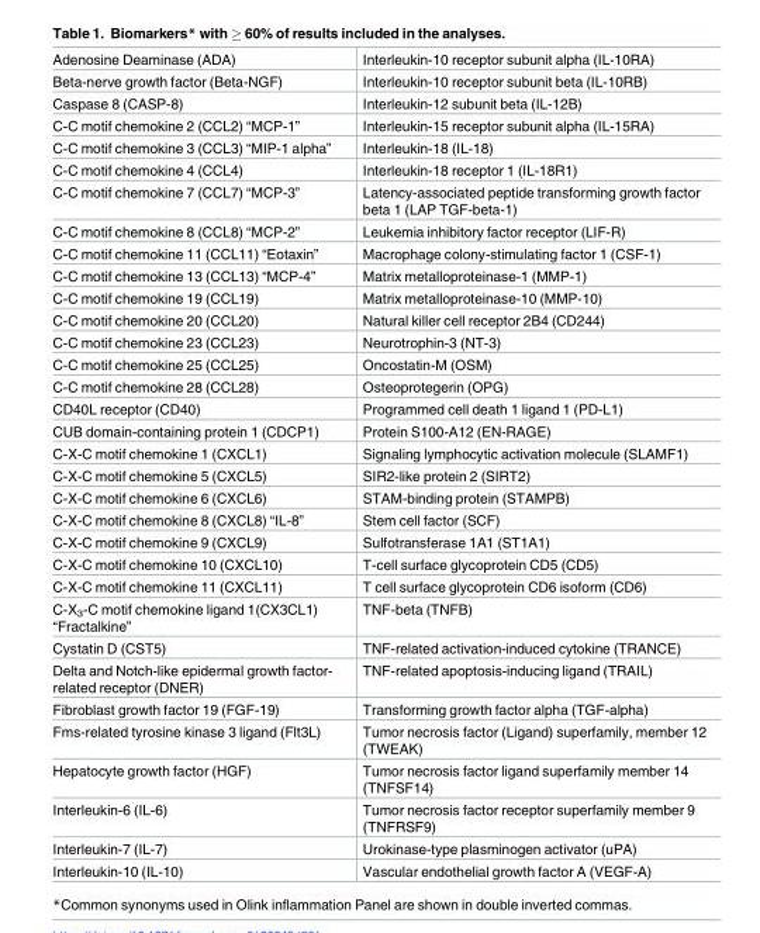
<table><tbody><tr><td>Adenosine Deaminase (ADA)</td><td>Interleukin-10 receptor subunit alpha (IL-10RA)</td></tr><tr><td>Beta-nerve growth factor (Beta-NGF)</td><td>Interleukin-10 receptor subunit beta (IL-10RB)</td></tr><tr><td>Caspase 8 (CASP-8)</td><td>Interleukin-12 subunit beta (IL-12B)</td></tr><tr><td>C-C motif chemokine 2 (CCL2) “MCP-1”</td><td>Interleukin-15 receptor subunit alpha (IL-15RA)</td></tr><tr><td>C-C motif chemokine 3 (CCL3) “MIP-1 alpha”</td><td>Interleukin-18 (IL-18)</td></tr><tr><td>C-C motif chemokine 4 (CCL4)</td><td>Interleukin-18 receptor 1 (IL-18R1)</td></tr><tr><td>C-C motif chemokine 7 (CCL7) “MCP-3”</td><td>Latency-associated peptide transforming growth factor beta 1 (LAP TGF-beta-1)</td></tr><tr><td>C-C motif chemokine 8 (CCL8) “MCP-2”</td><td>Leukemia inhibitory factor receptor (LIF-R)</td></tr><tr><td>C-C motif chemokine 11 (CCL11) “Eotaxin”</td><td>Macrophage colony-stimulating factor 1 (CSF-1)</td></tr><tr><td>C-C motif chemokine 13 (CCL13) “MCP-4”</td><td>Matrix metalloproteinase-1 (MMP-1)</td></tr><tr><td>C-C motif chemokine 19 (CCL19)</td><td>Matrix metalloproteinase-10 (MMP-10)</td></tr><tr><td>C-C motif chemokine 20 (CCL20)</td><td>Natural killer cell receptor 2B4 (CD244)</td></tr><tr><td>C-C motif chemokine 23 (CCL23)</td><td>Neurotrophin-3 (NT-3)</td></tr><tr><td>C-C motif chemokine 25 (CCL25)</td><td>Oncostatin-M (OSM)</td></tr><tr><td>C-C motif chemokine 28 (CCL28)</td><td>Osteoprotegerin (OPG)</td></tr><tr><td>CD40L receptor (CD40)</td><td>Programmed cell death 1 ligand 1 (PD-L1)</td></tr><tr><td>CUB domain-containing protein 1 (CDCP1)</td><td>Protein S100-A12 (EN-RAGE)</td></tr><tr><td>C-X-C motif chemokine 1 (CXCL1)</td><td>Signaling lymphocytic activation molecule (SLAMF1)</td></tr><tr><td>C-X-C motif chemokine 5 (CXCL5)</td><td>SIR2-like protein 2 (SIRT2)</td></tr><tr><td>C-X-C motif chemokine 6 (CXCL6)</td><td>STAM-binding protein (STAMPB)</td></tr><tr><td>C-X-C motif chemokine 8 (CXCL8) “IL-8”</td><td>Stem cell factor (SCF)</td></tr><tr><td>C-X-C motif chemokine 9 (CXCL9)</td><td>Sulfotransferase 1A1 (ST1A1)</td></tr><tr><td>C-X-C motif chemokine 10 (CXCL10)</td><td>T-cell surface glycoprotein CD5 (CD5)</td></tr><tr><td>C-X-C motif chemokine 11 (CXCL11)</td><td>T cell surface glycoprotein CD6 isoform (CD6)</td></tr><tr><td>C-X<sub>3</sub>-C motif chemokine ligand 1(CX3CL1) “Fractalkine”</td><td>TNF-beta (TNFB)</td></tr><tr><td>Cystatin D (CST5)</td><td>TNF-related activation-induced cytokine (TRANCE)</td></tr><tr><td>Delta and Notch-like epidermal growth factor- related receptor (DNER)</td><td>TNF-related apoptosis-inducing ligand (TRAIL)</td></tr><tr><td>Fibroblast growth factor 19 (FGF-19)</td><td>Transforming growth factor alpha (TGF-alpha)</td></tr><tr><td>Fms-related tyrosine kinase 3 ligand (Flt3L)</td><td>Tumor necrosis factor (Ligand) superfamily, member 12 (TWEAK)</td></tr><tr><td>Hepatocyte growth factor (HGF)</td><td>Tumor necrosis factor ligand superfamily member 14 (TNFSF14)</td></tr><tr><td>Interleukin-6 (IL-6)</td><td>Tumor necrosis factor receptor superfamily member 9 (TNFRSF9)</td></tr><tr><td>Interleukin-7 (IL-7)</td><td>Urokinase-type plasminogen activator (uPA)</td></tr><tr><td>Interleukin-10 (IL-10)</td><td>Vascular endothelial growth factor A (VEGF-A)</td></tr></tbody></table>